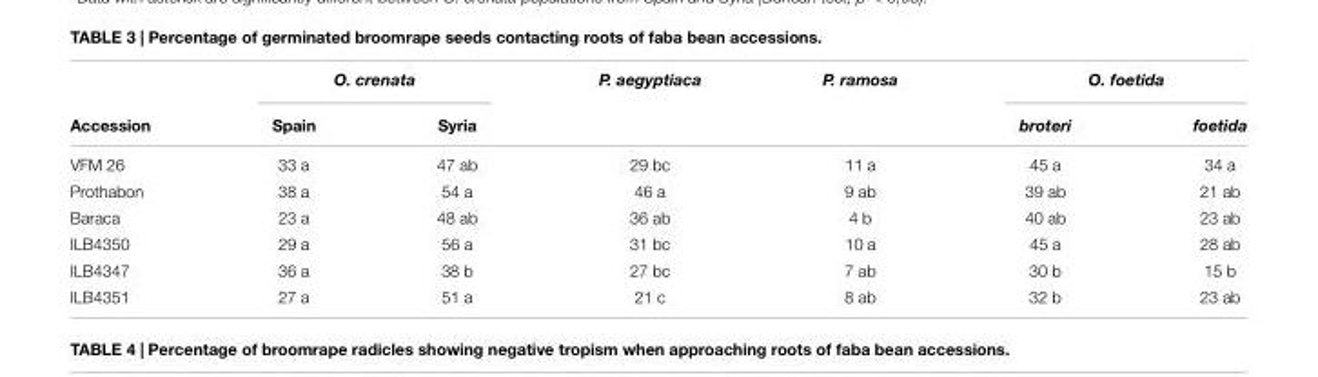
<table><thead><tr><td rowspan="2">Accession</td><td colspan="2">O. crenata</td><td rowspan="2">P. aegyptiaca</td><td rowspan="2">P. ramosa</td><td colspan="2">O. foetida</td></tr><tr><td>Spain</td><td>Syria</td><td>broteri</td><td>foetida</td></tr></thead><tbody><tr><td>VFM 26</td><td>33 a</td><td>47 ab</td><td>29 bc</td><td>11 a</td><td>45 a</td><td>34 a</td></tr><tr><td>Prothabon</td><td>38 a</td><td>54 a</td><td>46 a</td><td>9 ab</td><td>39 ab</td><td>21 ab</td></tr><tr><td>Baraca</td><td>23 a</td><td>48 ab</td><td>36 ab</td><td>4 b</td><td>40 ab</td><td>23 ab</td></tr><tr><td>ILB4350</td><td>29 a</td><td>56 a</td><td>31 bc</td><td>10 a</td><td>45 a</td><td>28 ab</td></tr><tr><td>ILB4347</td><td>36 a</td><td>38 b</td><td>27 bc</td><td>7 ab</td><td>30 b</td><td>15 b</td></tr><tr><td>ILB4351</td><td>27 a</td><td>51 a</td><td>21 c</td><td>8 ab</td><td>32 b</td><td>23 ab</td></tr></tbody></table>